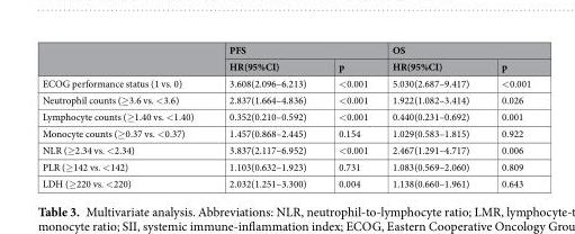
<table><thead><tr><td rowspan="2"></td><td colspan="2">PFS</td><td colspan="2">OS</td></tr><tr><td>HR(95%CI)</td><td>p</td><td>HR(95%CI)</td><td>p</td></tr></thead><tbody><tr><td>ECOG performance status (1 vs. 0)</td><td>3.608(2.096–6.213)</td><td>&lt;0.001</td><td>5.030(2.687–9.417)</td><td>&lt;0.001</td></tr><tr><td>Neutrophil counts (≥3.6 vs. &lt;3.6)</td><td>2.837(1.664–4.836)</td><td>&lt;0.001</td><td>1.922(1.082–3.414)</td><td>0.026</td></tr><tr><td>Lymphocyte counts (≥1.40 vs. &lt;1.40)</td><td>0.352(0.210–0.592)</td><td>&lt;0.001</td><td>0.440(0.231–0.692)</td><td>0.001</td></tr><tr><td>Monocyte counts (≥0.37 vs. &lt;0.37)</td><td>1.457(0.868–2.445)</td><td>0.154</td><td>1.029(0.583–1.815)</td><td>0.922</td></tr><tr><td>NLR (≥2.34 vs. &lt;2.34)</td><td>3.837(2.117–6.952)</td><td>&lt;0.001</td><td>2.467(1.291–4.717)</td><td>0.006</td></tr><tr><td>PLR (≥142 vs. &lt;142)</td><td>1.103(0.632–1.923)</td><td>0.731</td><td>1.083(0.569–2.060)</td><td>0.809</td></tr><tr><td>LDH (≥220 vs. &lt;220)</td><td>2.032(1.251–3.300)</td><td>0.004</td><td>1.138(0.660–1.961)</td><td>0.643</td></tr></tbody></table>